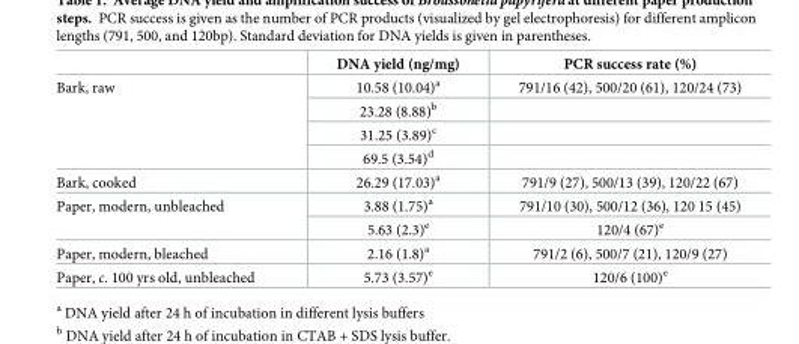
<table><thead><tr><td></td><td>DNA yield (ng/mg)</td><td>PCR success rate (%)</td></tr></thead><tbody><tr><td rowspan="4">Bark, raw</td><td>10.58 (10.04)<sup>a</sup></td><td>791/16 (42), 500/20 (61), 120/24 (73)</td></tr><tr><td>23.28 (8.88)<sup>b</sup></td><td></td></tr><tr><td>31.25 (3.89)<sup>c</sup></td><td></td></tr><tr><td>69.5 (3.54)<sup>d</sup></td><td></td></tr><tr><td>Bark, cooked</td><td>26.29 (17.03)<sup>a</sup></td><td>791/9 (27), 500/13 (39), 120/22 (67)</td></tr><tr><td rowspan="2">Paper, modern, unbleached</td><td>3.88 (1.75)<sup>a</sup></td><td>791/10 (30), 500/12 (36), 120 15 (45)</td></tr><tr><td>5.63 (2.3)<sup>e</sup></td><td>120/4 (67)<sup>e</sup></td></tr><tr><td>Paper, modern, bleached</td><td>2.16 (1.8)<sup>a</sup></td><td>791/2 (6), 500/7 (21), 120/9 (27)</td></tr><tr><td>Paper, c. 100 yrs old, unbleached</td><td>5.73 (3.57)<sup>e</sup></td><td>120/6 (100)<sup>e</sup></td></tr></tbody></table>